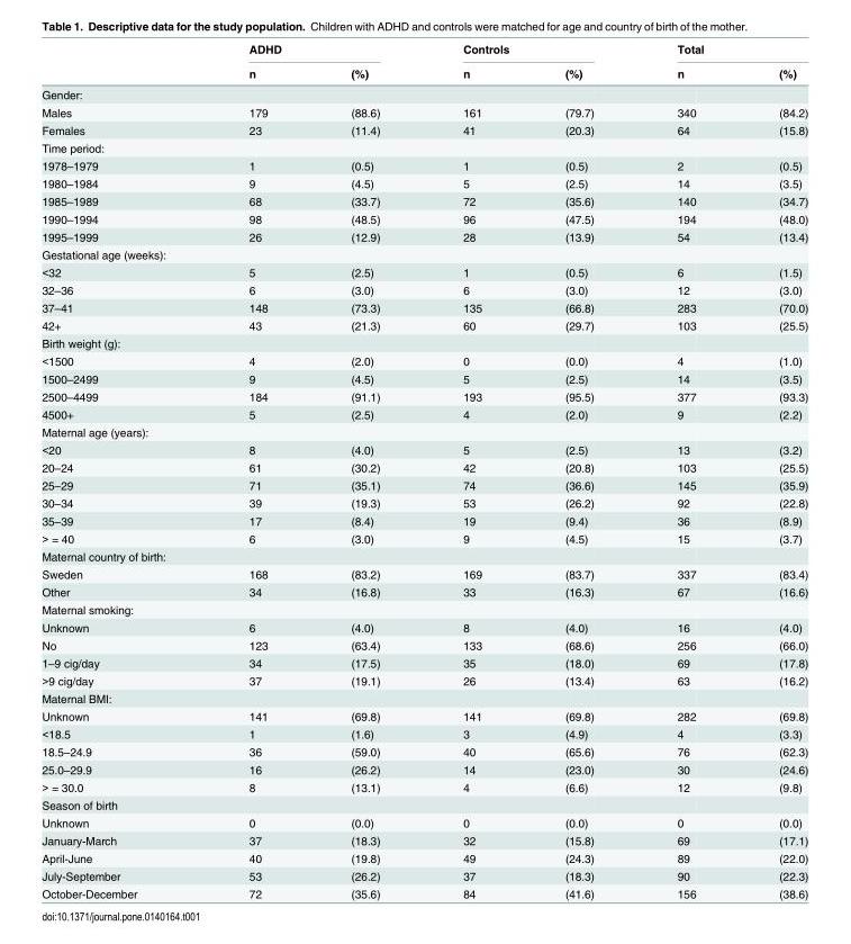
<table><thead><tr><td rowspan="2"></td><td colspan="2">ADHD</td><td colspan="2">Controls</td><td colspan="2">Total</td></tr><tr><td>n</td><td>(%)</td><td>n</td><td>(%)</td><td>n</td><td>(%)</td></tr></thead><tbody><tr><td colspan="7">Gender:</td></tr><tr><td>Males</td><td>179</td><td>(88.6)</td><td>161</td><td>(79.7)</td><td>340</td><td>(84.2)</td></tr><tr><td>Females</td><td>23</td><td>(11.4)</td><td>41</td><td>(20.3)</td><td>64</td><td>(15.8)</td></tr><tr><td colspan="7">Time period:</td></tr><tr><td>1978–1979</td><td>1</td><td>(0.5)</td><td>1</td><td>(0.5)</td><td>2</td><td>(0.5)</td></tr><tr><td>1980–1984</td><td>9</td><td>(4.5)</td><td>5</td><td>(2.5)</td><td>14</td><td>(3.5)</td></tr><tr><td>1985–1989</td><td>68</td><td>(33.7)</td><td>72</td><td>(35.6)</td><td>140</td><td>(34.7)</td></tr><tr><td>1990–1994</td><td>98</td><td>(48.5)</td><td>96</td><td>(47.5)</td><td>194</td><td>(48.0)</td></tr><tr><td>1995–1999</td><td>26</td><td>(12.9)</td><td>28</td><td>(13.9)</td><td>54</td><td>(13.4)</td></tr><tr><td colspan="7">Gestational age (weeks):</td></tr><tr><td>&lt;32</td><td>5</td><td>(2.5)</td><td>1</td><td>(0.5)</td><td>6</td><td>(1.5)</td></tr><tr><td>32–36</td><td>6</td><td>(3.0)</td><td>6</td><td>(3.0)</td><td>12</td><td>(3.0)</td></tr><tr><td>37–41</td><td>148</td><td>(73.3)</td><td>135</td><td>(66.8)</td><td>283</td><td>(70.0)</td></tr><tr><td>42+</td><td>43</td><td>(21.3)</td><td>60</td><td>(29.7)</td><td>103</td><td>(25.5)</td></tr><tr><td colspan="7">Birth weight (g):</td></tr><tr><td>&lt;1500</td><td>4</td><td>(2.0)</td><td>0</td><td>(0.0)</td><td>4</td><td>(1.0)</td></tr><tr><td>1500–2499</td><td>9</td><td>(4.5)</td><td>5</td><td>(2.5)</td><td>14</td><td>(3.5)</td></tr><tr><td>2500–4499</td><td>184</td><td>(91.1)</td><td>193</td><td>(95.5)</td><td>377</td><td>(93.3)</td></tr><tr><td>4500+</td><td>5</td><td>(2.5)</td><td>4</td><td>(2.0)</td><td>9</td><td>(2.2)</td></tr><tr><td colspan="7">Maternal age (years):</td></tr><tr><td>&lt;20</td><td>8</td><td>(4.0)</td><td>5</td><td>(2.5)</td><td>13</td><td>(3.2)</td></tr><tr><td>20–24</td><td>61</td><td>(30.2)</td><td>42</td><td>(20.8)</td><td>103</td><td>(25.5)</td></tr><tr><td>25–29</td><td>71</td><td>(35.1)</td><td>74</td><td>(36.6)</td><td>145</td><td>(35.9)</td></tr><tr><td>30–34</td><td>39</td><td>(19.3)</td><td>53</td><td>(26.2)</td><td>92</td><td>(22.8)</td></tr><tr><td>35–39</td><td>17</td><td>(8.4)</td><td>19</td><td>(9.4)</td><td>36</td><td>(8.9)</td></tr><tr><td>&gt; = 40</td><td>6</td><td>(3.0)</td><td>9</td><td>(4.5)</td><td>15</td><td>(3.7)</td></tr><tr><td colspan="7">Maternal country of birth:</td></tr><tr><td>Sweden</td><td>168</td><td>(83.2)</td><td>169</td><td>(83.7)</td><td>337</td><td>(83.4)</td></tr><tr><td>Other</td><td>34</td><td>(16.8)</td><td>33</td><td>(16.3)</td><td>67</td><td>(16.6)</td></tr><tr><td colspan="7">Maternal smoking:</td></tr><tr><td>Unknown</td><td>6</td><td>(4.0)</td><td>8</td><td>(4.0)</td><td>16</td><td>(4.0)</td></tr><tr><td>No</td><td>123</td><td>(63.4)</td><td>133</td><td>(68.6)</td><td>256</td><td>(66.0)</td></tr><tr><td>1–9 cig/day</td><td>34</td><td>(17.5)</td><td>35</td><td>(18.0)</td><td>69</td><td>(17.8)</td></tr><tr><td>&gt;9 cig/day</td><td>37</td><td>(19.1)</td><td>26</td><td>(13.4)</td><td>63</td><td>(16.2)</td></tr><tr><td colspan="7">Maternal BMI:</td></tr><tr><td>Unknown</td><td>141</td><td>(69.8)</td><td>141</td><td>(69.8)</td><td>282</td><td>(69.8)</td></tr><tr><td>&lt;18.5</td><td>1</td><td>(1.6)</td><td>3</td><td>(4.9)</td><td>4</td><td>(3.3)</td></tr><tr><td>18.5–24.9</td><td>36</td><td>(59.0)</td><td>40</td><td>(65.6)</td><td>76</td><td>(62.3)</td></tr><tr><td>25.0–29.9</td><td>16</td><td>(26.2)</td><td>14</td><td>(23.0)</td><td>30</td><td>(24.6)</td></tr><tr><td>&gt; = 30.0</td><td>8</td><td>(13.1)</td><td>4</td><td>(6.6)</td><td>12</td><td>(9.8)</td></tr><tr><td colspan="7">Season of birth</td></tr><tr><td>Unknown</td><td>0</td><td>(0.0)</td><td>0</td><td>(0.0)</td><td>0</td><td>(0.0)</td></tr><tr><td>January-March</td><td>37</td><td>(18.3)</td><td>32</td><td>(15.8)</td><td>69</td><td>(17.1)</td></tr><tr><td>April-June</td><td>40</td><td>(19.8)</td><td>49</td><td>(24.3)</td><td>89</td><td>(22.0)</td></tr><tr><td>July-September</td><td>53</td><td>(26.2)</td><td>37</td><td>(18.3)</td><td>90</td><td>(22.3)</td></tr><tr><td>October-December</td><td>72</td><td>(35.6)</td><td>84</td><td>(41.6)</td><td>156</td><td>(38.6)</td></tr></tbody></table>